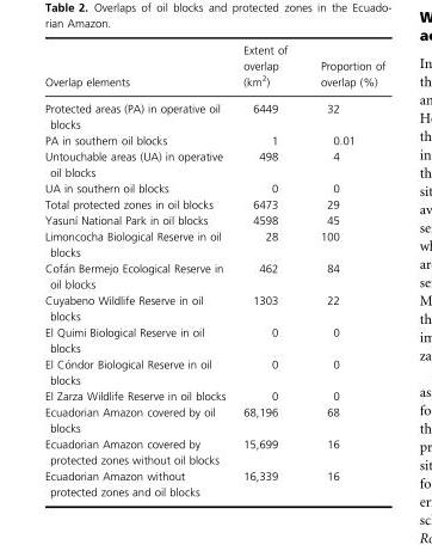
<table><thead><tr><td>Overlap elements</td><td>Extent of overlap (km<sup>2</sup>)</td><td>Proportion of overlap (%)</td></tr></thead><tbody><tr><td>Protected areas (PA) in operative oil blocks</td><td>6449</td><td>32</td></tr><tr><td>PA in southern oil blocks</td><td>1</td><td>0.01</td></tr><tr><td>Untouchable areas (UA) in operative oil blocks</td><td>498</td><td>4</td></tr><tr><td>UA in southern oil blocks</td><td>0</td><td>0</td></tr><tr><td>Total protected zones in oil blocks</td><td>6473</td><td>29</td></tr><tr><td>Yasun�ı National Park in oil blocks</td><td>4598</td><td>45</td></tr><tr><td>Limoncocha Biological Reserve in oil blocks</td><td>28</td><td>100</td></tr><tr><td>Cof�an Bermejo Ecological Reserve in oil blocks</td><td>462</td><td>84</td></tr><tr><td>Cuyabeno Wildlife Reserve in oil blocks</td><td>1303</td><td>22</td></tr><tr><td>El Quimi Biological Reserve in oil blocks</td><td>0</td><td>0</td></tr><tr><td>El C�ondor Biological Reserve in oil blocks</td><td>0</td><td>0</td></tr><tr><td>El Zarza Wildlife Reserve in oil blocks</td><td>0</td><td>0</td></tr><tr><td>Ecuadorian Amazon covered by oil blocks</td><td>68,196</td><td>68</td></tr><tr><td>Ecuadorian Amazon covered by protected zones without oil blocks</td><td>15,699</td><td>16</td></tr><tr><td>Ecuadorian Amazon without protected zones and oil blocks</td><td>16,339</td><td>16</td></tr></tbody></table>